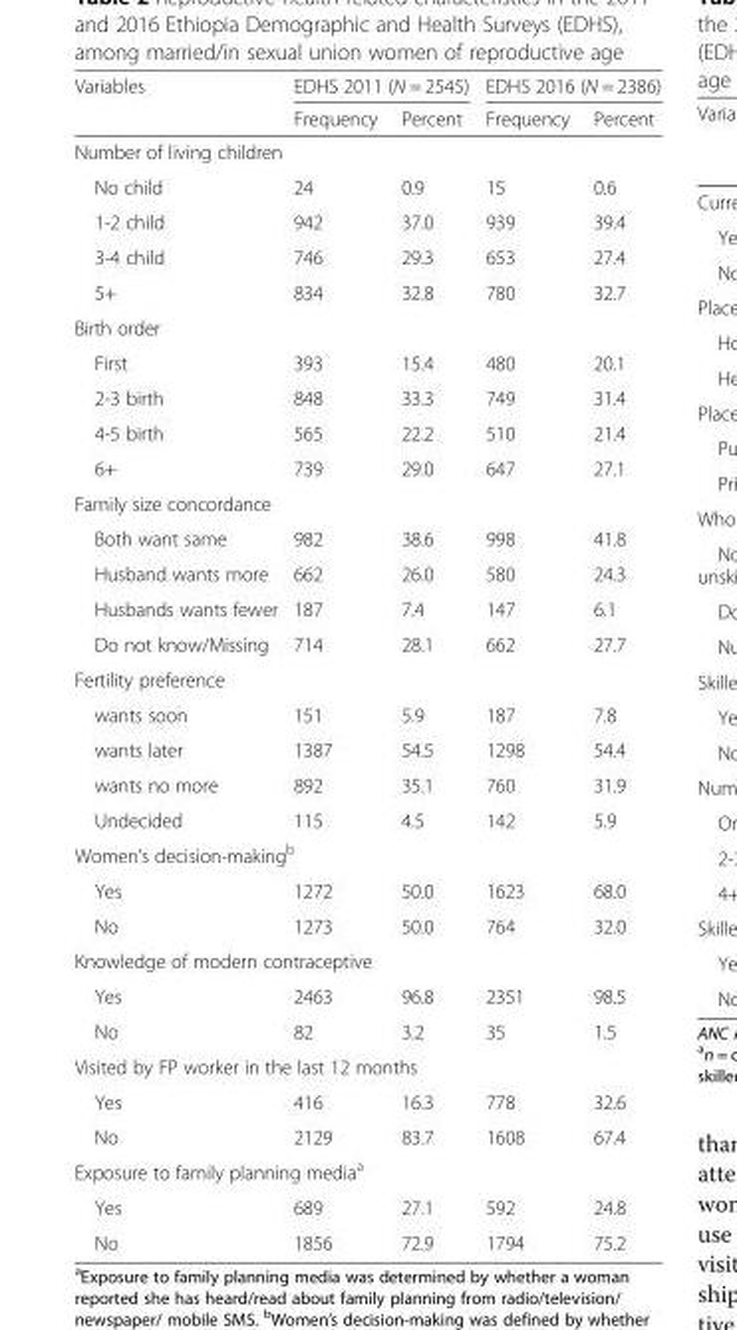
<table><thead><tr><td rowspan="2">Variables</td><td colspan="2">EDHS 2011 (N = 2545)</td><td colspan="2">EDHS 2016 (N = 2386)</td></tr><tr><td>Frequency</td><td>Percent</td><td>Frequency</td><td>Percent</td></tr></thead><tbody><tr><td colspan="5">Number of living children</td></tr><tr><td>No child</td><td>24</td><td>0.9</td><td>15</td><td>0.6</td></tr><tr><td>1-2 child</td><td>942</td><td>37.0</td><td>939</td><td>39.4</td></tr><tr><td>3-4 child</td><td>746</td><td>29.3</td><td>653</td><td>27.4</td></tr><tr><td>5+</td><td>834</td><td>32.8</td><td>780</td><td>32.7</td></tr><tr><td colspan="5">Birth order</td></tr><tr><td>First</td><td>393</td><td>15.4</td><td>480</td><td>20.1</td></tr><tr><td>2-3 birth</td><td>848</td><td>33.3</td><td>749</td><td>31.4</td></tr><tr><td>4-5 birth</td><td>565</td><td>22.2</td><td>510</td><td>21.4</td></tr><tr><td>6+</td><td>739</td><td>29.0</td><td>647</td><td>27.1</td></tr><tr><td colspan="5">Family size concordance</td></tr><tr><td>Both want same</td><td>982</td><td>38.6</td><td>998</td><td>41.8</td></tr><tr><td>Husband wants more</td><td>662</td><td>26.0</td><td>580</td><td>24.3</td></tr><tr><td>Husbands wants fewer</td><td>187</td><td>7.4</td><td>147</td><td>6.1</td></tr><tr><td>Do not know/Missing</td><td>714</td><td>28.1</td><td>662</td><td>27.7</td></tr><tr><td colspan="5">Fertility preference</td></tr><tr><td>wants soon</td><td>151</td><td>5.9</td><td>187</td><td>7.8</td></tr><tr><td>wants later</td><td>1387</td><td>54.5</td><td>1298</td><td>54.4</td></tr><tr><td>wants no more</td><td>892</td><td>35.1</td><td>760</td><td>31.9</td></tr><tr><td>Undecided</td><td>115</td><td>4.5</td><td>142</td><td>5.9</td></tr><tr><td colspan="5">Women’s decision-making<sup>b</sup></td></tr><tr><td>Yes</td><td>1272</td><td>50.0</td><td>1623</td><td>68.0</td></tr><tr><td>No</td><td>1273</td><td>50.0</td><td>764</td><td>32.0</td></tr><tr><td colspan="5">Knowledge of modern contraceptive</td></tr><tr><td>Yes</td><td>2463</td><td>96.8</td><td>2351</td><td>98.5</td></tr><tr><td>No</td><td>82</td><td>3.2</td><td>35</td><td>1.5</td></tr><tr><td colspan="5">Visited by FP worker in the last 12 months</td></tr><tr><td>Yes</td><td>416</td><td>16.3</td><td>778</td><td>32.6</td></tr><tr><td>No</td><td>2129</td><td>83.7</td><td>1608</td><td>67.4</td></tr><tr><td colspan="5">Exposure to family planning media<sup>a</sup></td></tr><tr><td>Yes</td><td>689</td><td>27.1</td><td>592</td><td>24.8</td></tr><tr><td>No</td><td>1856</td><td>72.9</td><td>1794</td><td>75.2</td></tr></tbody></table>